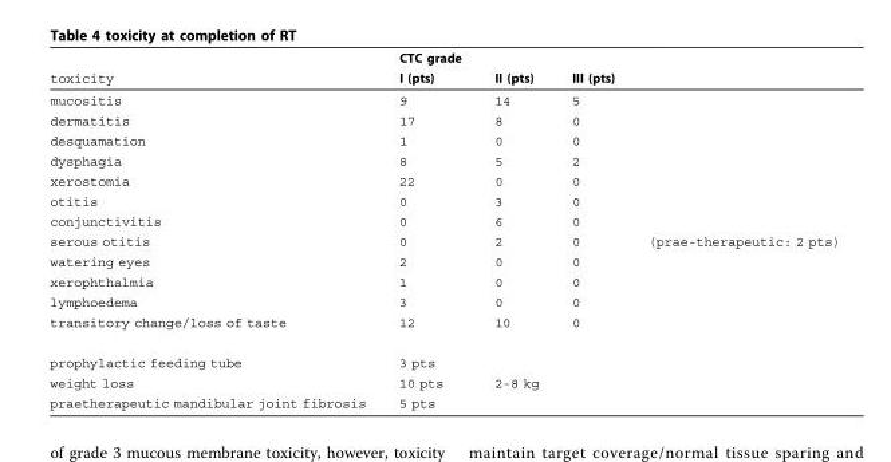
<table><thead><tr><td rowspan="2">toxicity</td><td rowspan="2">CTC grade I (pts)</td><td rowspan="2">II (pts)</td><td rowspan="2">III (pts)</td><td rowspan="2"></td></tr><tr></tr></thead><tbody><tr><td>mucositis</td><td>9</td><td>14</td><td>5</td><td></td></tr><tr><td>dermatitis</td><td>17</td><td>8</td><td>0</td><td></td></tr><tr><td>desquamation</td><td>1</td><td>0</td><td>0</td><td></td></tr><tr><td>dysphagia</td><td>8</td><td>5</td><td>2</td><td></td></tr><tr><td>xerostomia</td><td>22</td><td>0</td><td>0</td><td></td></tr><tr><td>otitis</td><td>0</td><td>3</td><td>0</td><td></td></tr><tr><td>conjunctivitis</td><td>0</td><td>6</td><td>0</td><td></td></tr><tr><td>serous otitis</td><td>0</td><td>2</td><td>0</td><td>(prae-therapeutic: 2 pts)</td></tr><tr><td>watering eyes</td><td>2</td><td>0</td><td>0</td><td></td></tr><tr><td>xerophthalmia</td><td>1</td><td>0</td><td>0</td><td></td></tr><tr><td>lymphoedema</td><td>3</td><td>0</td><td>0</td><td></td></tr><tr><td>transitory change/loss of taste</td><td>12</td><td>10</td><td>0</td><td></td></tr><tr><td>prophylactic feeding tube</td><td>3 pts</td><td></td><td></td><td></td></tr><tr><td>weight loss</td><td>10 pts</td><td>2-8 kg</td><td></td><td></td></tr><tr><td>praetherapeutic mandibular joint fibrosis</td><td>5 pts</td><td></td><td></td><td></td></tr></tbody></table>